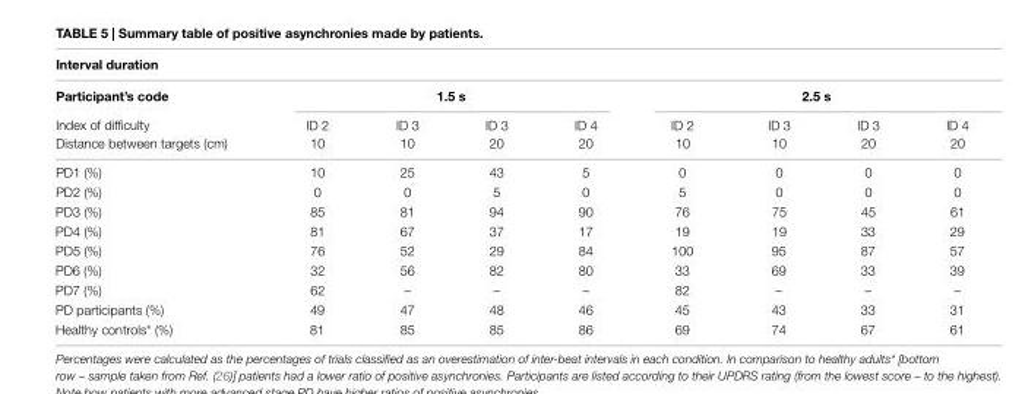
<table><thead><tr><td colspan="9">interval duration</td></tr><tr><td rowspan="2">Participant’s code Index of difficulty</td><td colspan="4">1.5 s</td><td colspan="4">2.5 s</td></tr><tr><td>ID 2</td><td>ID 3</td><td>ID 3</td><td>ID 4</td><td>ID 2</td><td>ID 3</td><td>ID 3</td><td>ID 4</td></tr></thead><tbody><tr><td>Distance between targets (cm)</td><td>10</td><td>10</td><td>20</td><td>20</td><td>10</td><td>10</td><td>20</td><td>20</td></tr><tr><td>PD1 (%)</td><td>10</td><td>25</td><td>43</td><td>5</td><td>0</td><td>0</td><td>0</td><td>0</td></tr><tr><td>PD2 (%)</td><td>0</td><td>0</td><td>5</td><td>0</td><td>5</td><td>0</td><td>0</td><td>0</td></tr><tr><td>PD3 (%)</td><td>85</td><td>81</td><td>94</td><td>90</td><td>76</td><td>75</td><td>45</td><td>61</td></tr><tr><td>PD4 (%)</td><td>81</td><td>67</td><td>37</td><td>17</td><td>19</td><td>19</td><td>33</td><td>29</td></tr><tr><td>PD5 (%)</td><td>76</td><td>52</td><td>29</td><td>84</td><td>100</td><td>95</td><td>87</td><td>57</td></tr><tr><td>PD6 (%)</td><td>32</td><td>56</td><td>82</td><td>80</td><td>33</td><td>69</td><td>33</td><td>39</td></tr><tr><td>PD7 (%)</td><td>62</td><td>–</td><td>–</td><td>–</td><td>82</td><td>–</td><td>–</td><td>–</td></tr><tr><td>PD participants (%)</td><td>49</td><td>47</td><td>48</td><td>46</td><td>45</td><td>43</td><td>33</td><td>31</td></tr><tr><td>Healthy controls* (%)</td><td>81</td><td>85</td><td>85</td><td>86</td><td>69</td><td>74</td><td>67</td><td>61</td></tr></tbody></table>